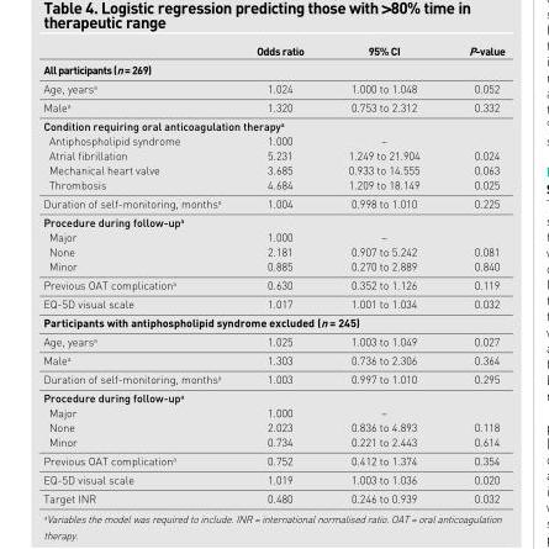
<table><thead><tr><td></td><td>Odds ratio</td><td>95% CI</td><td>P-value</td></tr></thead><tbody><tr><td colspan="4">All participants (n = 269)</td></tr><tr><td>Age, years<sup>a</sup></td><td>1.024</td><td>1.000 to 1.048</td><td>0.052</td></tr><tr><td>Male<sup>a</sup></td><td>1.320</td><td>0.753 to 2.312</td><td>0.332</td></tr><tr><td colspan="4">Condition requiring oral anticoagulation therapy<sup>a</sup></td></tr><tr><td>Antiphospholipid syndrome</td><td>1.000</td><td>–</td><td></td></tr><tr><td>Atrial fibrillation</td><td>5.231</td><td>1.249 to 21.904</td><td>0.024</td></tr><tr><td>Mechanical heart valve</td><td>3.685</td><td>0.933 to 14.555</td><td>0.063</td></tr><tr><td>Thrombosis</td><td>4.684</td><td>1.209 to 18.149</td><td>0.025</td></tr><tr><td>Duration of self-monitoring, months<sup>a</sup></td><td>1.004</td><td>0.998 to 1.010</td><td>0.225</td></tr><tr><td colspan="4">Procedure during follow-up<sup>a</sup></td></tr><tr><td>Major</td><td>1.000</td><td>–</td><td></td></tr><tr><td>None</td><td>2.181</td><td>0.907 to 5.242</td><td>0.081</td></tr><tr><td>Minor</td><td>0.885</td><td>0.270 to 2.889</td><td>0.840</td></tr><tr><td>Previous OAT complication<sup>a</sup></td><td>0.630</td><td>0.352 to 1.126</td><td>0.119</td></tr><tr><td>EQ-5D visual scale</td><td>1.017</td><td>1.001 to 1.034</td><td>0.032</td></tr><tr><td colspan="4">Participants with antiphospholipid syndrome excluded (n = 245)</td></tr><tr><td>Age, years<sup>a</sup></td><td>1.025</td><td>1.003 to 1.049</td><td>0.027</td></tr><tr><td>Male<sup>a</sup></td><td>1.303</td><td>0.736 to 2.306</td><td>0.364</td></tr><tr><td>Duration of self-monitoring, months<sup>a</sup></td><td>1.003</td><td>0.997 to 1.010</td><td>0.295</td></tr><tr><td colspan="4">Procedure during follow-up<sup>a</sup></td></tr><tr><td>Major</td><td>1.000</td><td>–</td><td></td></tr><tr><td>None</td><td>2.023</td><td>0.836 to 4.893</td><td>0.118</td></tr><tr><td>Minor</td><td>0.734</td><td>0.221 to 2.443</td><td>0.614</td></tr><tr><td>Previous OAT complication<sup>a</sup></td><td>0.752</td><td>0.412 to 1.374</td><td>0.354</td></tr><tr><td>EQ-5D visual scale</td><td>1.019</td><td>1.003 to 1.036</td><td>0.020</td></tr><tr><td>Target INR</td><td>0.480</td><td>0.246 to 0.939</td><td>0.032</td></tr></tbody></table>